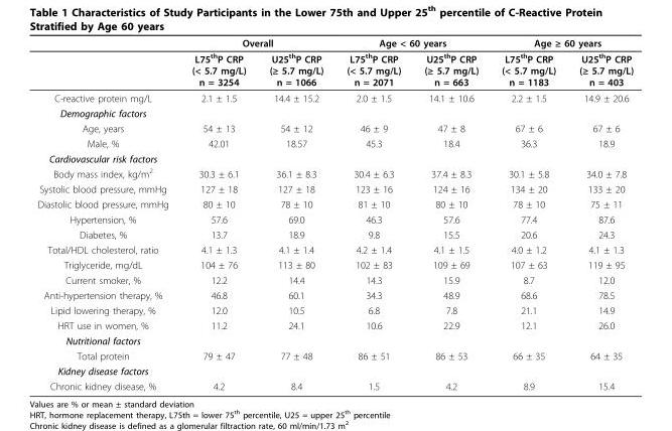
<table><thead><tr><td rowspan="2"></td><td colspan="2">Overall</td><td colspan="2">Age &lt; 60 years</td><td colspan="2">Age ≥ 60 years</td></tr><tr><td>L75<sup>th</sup>P CRP (&lt; 5.7 mg/L) n = 3254</td><td>U25<sup>th</sup>P CRP (≥ 5.7 mg/L) n = 1066</td><td>L75<sup>th</sup>P CRP (&lt; 5.7 mg/L) n = 2071</td><td>U25<sup>th</sup>P CRP (≥ 5.7 mg/L) n = 663</td><td>L75<sup>th</sup>P CRP (&lt; 5.7 mg/L) n = 1183</td><td>U25<sup>th</sup>P CRP (≥ 5.7 mg/L) n = 403</td></tr></thead><tbody><tr><td>C-reactive protein mg/L</td><td>2.1 ± 1.5</td><td>14.4 ± 15.2</td><td>2.0 ± 1.5</td><td>14.1 ± 10.6</td><td>2.2 ± 1.5</td><td>14.9 ± 20.6</td></tr><tr><td colspan="7">Demographic factors</td></tr><tr><td>Age, years</td><td>54 ± 13</td><td>54 ± 12</td><td>46 ± 9</td><td>47 ± 8</td><td>67 ± 6</td><td>67 ± 6</td></tr><tr><td>Male, %</td><td>42.01</td><td>18.57</td><td>45.3</td><td>18.4</td><td>36.3</td><td>18.9</td></tr><tr><td colspan="7">Cardiovascular risk factors</td></tr><tr><td>Body mass index, kg/m<sup>2</sup></td><td>30.3 ± 6.1</td><td>36.1 ± 8.3</td><td>30.4 ± 6.3</td><td>37.4 ± 8.3</td><td>30.1 ± 5.8</td><td>34.0 ± 7.8</td></tr><tr><td>Systolic blood pressure, mmHg</td><td>127 ± 18</td><td>127 ± 18</td><td>123 ± 16</td><td>124 ± 16</td><td>134 ± 20</td><td>133 ± 20</td></tr><tr><td>Diastolic blood pressure, mmHg</td><td>80 ± 10</td><td>78 ± 10</td><td>81 ± 10</td><td>80 ± 10</td><td>78 ± 10</td><td>75 ± 11</td></tr><tr><td>Hypertension, %</td><td>57.6</td><td>69.0</td><td>46.3</td><td>57.6</td><td>77.4</td><td>87.6</td></tr><tr><td>Diabetes, %</td><td>13.7</td><td>18.9</td><td>9.8</td><td>15.5</td><td>20.6</td><td>24.3</td></tr><tr><td>Total/HDL cholesterol, ratio</td><td>4.1 ± 1.3</td><td>4.1 ± 1.4</td><td>4.2 ± 1.4</td><td>4.1 ± 1.5</td><td>4.0 ± 1.2</td><td>4.1 ± 1.3</td></tr><tr><td>Triglyceride, mg/dL</td><td>104 ± 76</td><td>113 ± 80</td><td>102 ± 83</td><td>109 ± 69</td><td>107 ± 63</td><td>119 ± 95</td></tr><tr><td>Current smoker, %</td><td>12.2</td><td>14.4</td><td>14.3</td><td>15.9</td><td>8.7</td><td>12.0</td></tr><tr><td>Anti-hypertension therapy, %</td><td>46.8</td><td>60.1</td><td>34.3</td><td>48.9</td><td>68.6</td><td>78.5</td></tr><tr><td>Lipid lowering therapy, %</td><td>12.0</td><td>10.5</td><td>6.8</td><td>7.8</td><td>21.1</td><td>14.9</td></tr><tr><td>HRT use in women, %</td><td>11.2</td><td>24.1</td><td>10.6</td><td>22.9</td><td>12.1</td><td>26.0</td></tr><tr><td colspan="7">Nutritional factors</td></tr><tr><td>Total protein</td><td>79 ± 47</td><td>77 ± 48</td><td>86 ± 51</td><td>86 ± 53</td><td>66 ± 35</td><td>64 ± 35</td></tr><tr><td colspan="7">Kidney disease factors</td></tr><tr><td>Chronic kidney disease, %</td><td>4.2</td><td>8.4</td><td>1.5</td><td>4.2</td><td>8.9</td><td>15.4</td></tr></tbody></table>